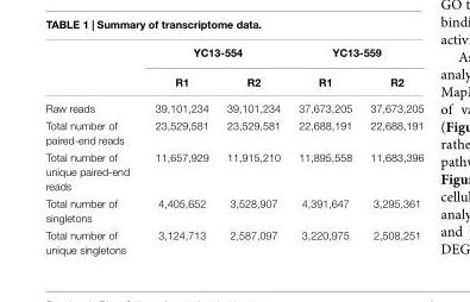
<table><thead><tr><td rowspan="2"></td><td colspan="2">YC13-554</td><td colspan="2">YC13-559</td></tr><tr><td>R1</td><td>R2</td><td>R1</td><td>R2</td></tr></thead><tbody><tr><td>Raw reads</td><td>39,101,234</td><td>39,101,234</td><td>37,673,205</td><td>37,673,205</td></tr><tr><td>Total number of paired-end reads</td><td>23,529,581</td><td>23,529,581</td><td>22,688,191</td><td>22,688,191</td></tr><tr><td>Total number of unique paired-end reads</td><td>11,657,929</td><td>11,915,210</td><td>11,895,558</td><td>11,683,396</td></tr><tr><td>Total number of singletons</td><td>4,405,652</td><td>3,528,907</td><td>4,391,647</td><td>3,295,361</td></tr><tr><td>Total number of unique singletons</td><td>3,124,713</td><td>2,587,097</td><td>3,220,975</td><td>2,508,251</td></tr></tbody></table>